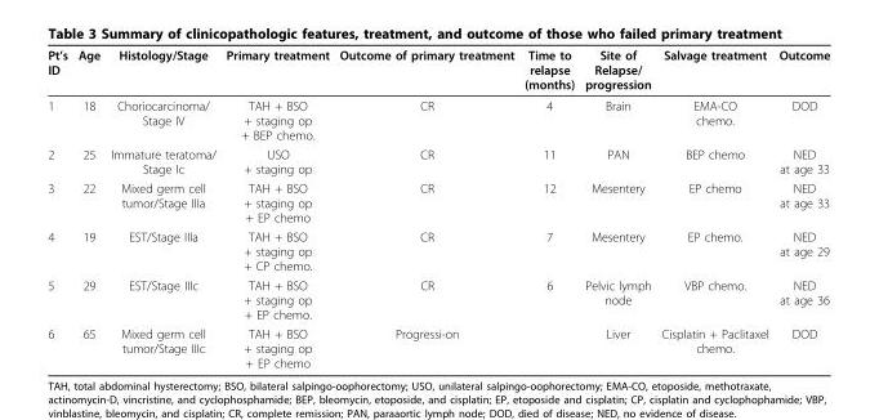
<table><thead><tr><td>Pt’s ID</td><td>Age</td><td>Histology/Stage</td><td>Primary treatment</td><td>Outcome of primary treatment</td><td>Time to relapse (months)</td><td>Site of Relapse/ progression</td><td>Salvage treatment</td><td>Outcome</td></tr></thead><tbody><tr><td>1</td><td>18</td><td>Choriocarcinoma/ Stage IV</td><td>TAH + BSO + staging op + BEP chemo.</td><td>CR</td><td>4</td><td>Brain</td><td>EMA-CO chemo.</td><td>DOD</td></tr><tr><td>2</td><td>25</td><td>Immature teratoma/ Stage Ic</td><td>USO + staging op</td><td>CR</td><td>11</td><td>PAN</td><td>BEP chemo</td><td>NED at age 33</td></tr><tr><td>3</td><td>22</td><td>Mixed germ cell tumor/Stage IIIa</td><td>TAH + BSO + staging op + EP chemo</td><td>CR</td><td>12</td><td>Mesentery</td><td>EP chemo</td><td>NED at age 33</td></tr><tr><td>4</td><td>19</td><td>EST/Stage IIIa</td><td>TAH + BSO + staging op + CP chemo.</td><td>CR</td><td>7</td><td>Mesentery</td><td>EP chemo.</td><td>NED at age 29</td></tr><tr><td>5</td><td>29</td><td>EST/Stage IIIc</td><td>TAH + BSO + staging op + EP chemo.</td><td>CR</td><td>6</td><td>Pelvic lymph node</td><td>VBP chemo.</td><td>NED at age 36</td></tr><tr><td>6</td><td>65</td><td>Mixed germ cell tumor/Stage IIIc</td><td>TAH + BSO + staging op + EP chemo</td><td>Progressi-on</td><td></td><td>Liver</td><td>Cisplatin + Paclitaxel chemo.</td><td>DOD</td></tr></tbody></table>